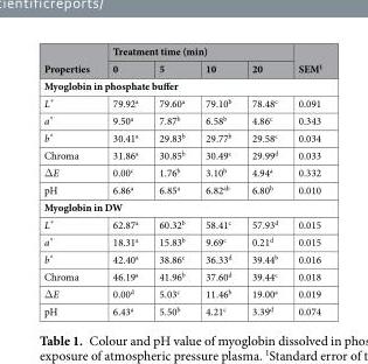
<table><thead><tr><td rowspan="2">Properties</td><td colspan="4">Treatment time (min)</td><td rowspan="2">SEM<sup>1</sup></td></tr><tr><td>0</td><td>5</td><td>10</td><td>20</td></tr></thead><tbody><tr><td colspan="6">Myoglobin in phosphate buffer</td></tr><tr><td>L*</td><td>79.92<sup>a</sup></td><td>79.60<sup>a</sup></td><td>79.10<sup>b</sup></td><td>78.48<sup>c</sup></td><td>0.091</td></tr><tr><td>a*</td><td>9.50<sup>a</sup></td><td>7.87<sup>b</sup></td><td>6.58<sup>b</sup></td><td>4.86<sup>c</sup></td><td>0.343</td></tr><tr><td>b*</td><td>30.41<sup>a</sup></td><td>29.83<sup>b</sup></td><td>29.77<sup>b</sup></td><td>29.58<sup>c</sup></td><td>0.034</td></tr><tr><td>Chroma</td><td>31.86<sup>a</sup></td><td>30.85<sup>b</sup></td><td>30.49<sup>c</sup></td><td>29.99<sup>d</sup></td><td>0.033</td></tr><tr><td>ΔE</td><td>0.00<sup>c</sup></td><td>1.76<sup>b</sup></td><td>3.10<sup>b</sup></td><td>4.94<sup>a</sup></td><td>0.332</td></tr><tr><td>pH</td><td>6.86<sup>a</sup></td><td>6.85<sup>a</sup></td><td>6.82<sup>ab</sup></td><td>6.80<sup>b</sup></td><td>0.010</td></tr><tr><td colspan="6">Myoglobin in DW</td></tr><tr><td>L*</td><td>62.87<sup>a</sup></td><td>60.32<sup>b</sup></td><td>58.41<sup>c</sup></td><td>57.93<sup>d</sup></td><td>0.015</td></tr><tr><td>a*</td><td>18.31<sup>a</sup></td><td>15.83<sup>b</sup></td><td>9.69<sup>c</sup></td><td>0.21<sup>d</sup></td><td>0.015</td></tr><tr><td>b*</td><td>42.40<sup>a</sup></td><td>38.86<sup>c</sup></td><td>36.33<sup>d</sup></td><td>39.44<sup>b</sup></td><td>0.016</td></tr><tr><td>Chroma</td><td>46.19<sup>a</sup></td><td>41.96<sup>b</sup></td><td>37.60<sup>d</sup></td><td>39.44<sup>c</sup></td><td>0.018</td></tr><tr><td>ΔE</td><td>0.00<sup>d</sup></td><td>5.03<sup>c</sup></td><td>11.46<sup>b</sup></td><td>19.00<sup>a</sup></td><td>0.019</td></tr><tr><td>pH</td><td>6.43<sup>a</sup></td><td>5.50<sup>b</sup></td><td>4.21<sup>c</sup></td><td>3.39<sup>d</sup></td><td>0.074</td></tr></tbody></table>